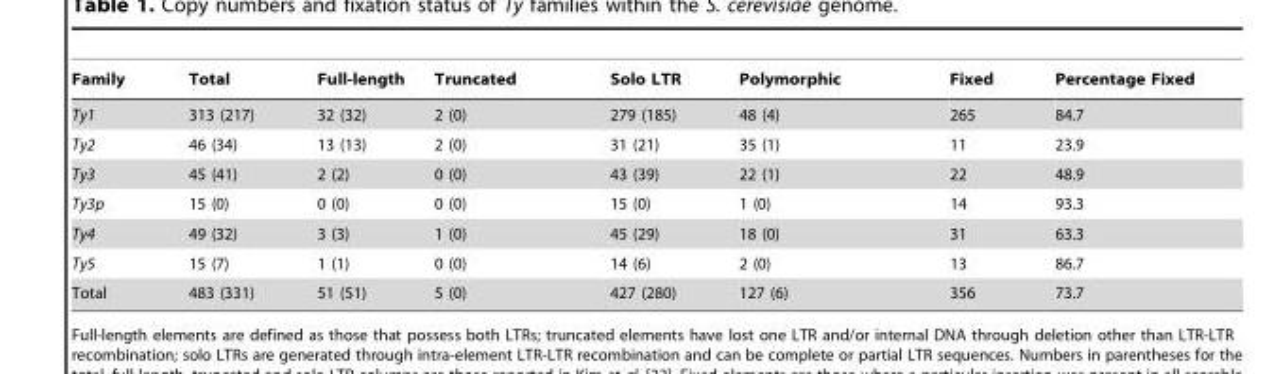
<table><thead><tr><td>Family</td><td>Total</td><td>Full-length</td><td>Truncated</td><td>Solo LTR</td><td>Polymorphic</td><td>Fixed</td><td>Percentage Fixed</td></tr></thead><tbody><tr><td>Ty1</td><td>313 (217)</td><td>32 (32)</td><td>2 (0)</td><td>279 (185)</td><td>48 (4)</td><td>265</td><td>84.7</td></tr><tr><td>Ty2</td><td>46 (34)</td><td>13 (13)</td><td>2 (0)</td><td>31 (21)</td><td>35 (1)</td><td>11</td><td>23.9</td></tr><tr><td>Ty3</td><td>45 (41)</td><td>2 (2)</td><td>0 (0)</td><td>43 (39)</td><td>22 (1)</td><td>22</td><td>48.9</td></tr><tr><td>Ty3p</td><td>15 (0)</td><td>0 (0)</td><td>0 (0)</td><td>15 (0)</td><td>1 (0)</td><td>14</td><td>93.3</td></tr><tr><td>Ty4</td><td>49 (32)</td><td>3 (3)</td><td>1 (0)</td><td>45 (29)</td><td>18 (0)</td><td>31</td><td>63.3</td></tr><tr><td>Ty5</td><td>15 (7)</td><td>1 (1)</td><td>0 (0)</td><td>14 (6)</td><td>2 (0)</td><td>13</td><td>86.7</td></tr><tr><td>Total</td><td>483 (331)</td><td>51 (51)</td><td>5 (0)</td><td>427 (280)</td><td>127 (6)</td><td>356</td><td>73.7</td></tr></tbody></table>